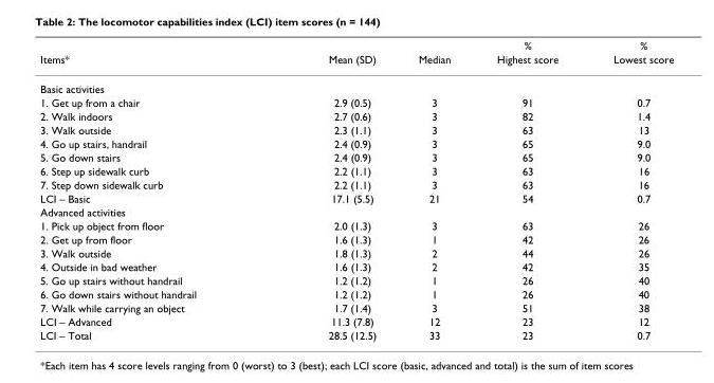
<table><thead><tr><td rowspan="2">Items*</td><td rowspan="2">Mean (SD)</td><td rowspan="2">Median</td><td rowspan="2">% Highest score</td><td rowspan="2">% Lowest score</td></tr><tr></tr></thead><tbody><tr><td colspan="5">Basic activities</td></tr><tr><td>1. Get up from a chair</td><td>2.9 (0.5)</td><td>3</td><td>91</td><td>0.7</td></tr><tr><td>2. Walk indoors</td><td>2.7 (0.6)</td><td>3</td><td>82</td><td>1.4</td></tr><tr><td>3. Walk outside</td><td>2.3 (1.1)</td><td>3</td><td>63</td><td>13</td></tr><tr><td>4. Go up stairs, handrail</td><td>2.4 (0.9)</td><td>3</td><td>65</td><td>9.0</td></tr><tr><td>5. Go down stairs</td><td>2.4 (0.9)</td><td>3</td><td>65</td><td>9.0</td></tr><tr><td>6. Step up sidewalk curb</td><td>2.2 (1.1)</td><td>3</td><td>63</td><td>16</td></tr><tr><td>7. Step down sidewalk curb</td><td>2.2 (1.1)</td><td>3</td><td>63</td><td>16</td></tr><tr><td>LCI – Basic</td><td>17.1 (5.5)</td><td>21</td><td>54</td><td>0.7</td></tr><tr><td colspan="5">Advanced activities</td></tr><tr><td>1. Pick up object from floor</td><td>2.0 (1.3)</td><td>3</td><td>63</td><td>26</td></tr><tr><td>2. Get up from floor</td><td>1.6 (1.3)</td><td>1</td><td>42</td><td>26</td></tr><tr><td>3. Walk outside</td><td>1.8 (1.3)</td><td>2</td><td>44</td><td>26</td></tr><tr><td>4. Outside in bad weather</td><td>1.6 (1.3)</td><td>2</td><td>42</td><td>35</td></tr><tr><td>5. Go up stairs without handrail</td><td>1.2 (1.2)</td><td>1</td><td>26</td><td>40</td></tr><tr><td>6. Go down stairs without handrail</td><td>1.2 (1.2)</td><td>1</td><td>26</td><td>40</td></tr><tr><td>7. Walk while carrying an object</td><td>1.7 (1.4)</td><td>3</td><td>51</td><td>38</td></tr><tr><td>LCI – Advanced</td><td>11.3 (7.8)</td><td>12</td><td>23</td><td>12</td></tr><tr><td>LCI – Total</td><td>28.5 (12.5)</td><td>33</td><td>23</td><td>0.7</td></tr></tbody></table>